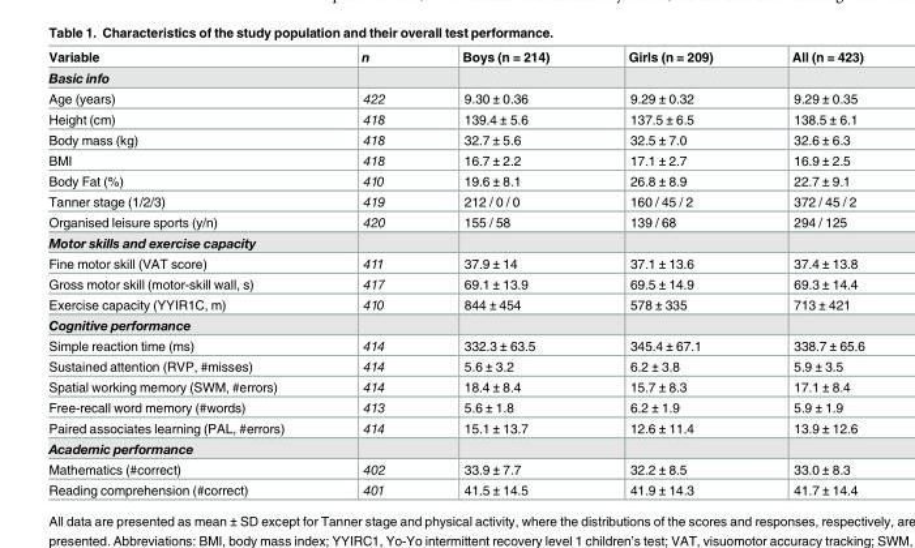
<table><thead><tr><td>Variable</td><td>n</td><td>Boys (n = 214)</td><td>Girls (n = 209)</td><td>All (n = 423)</td></tr></thead><tbody><tr><td colspan="5">Basic info</td></tr><tr><td>Age (years)</td><td>422</td><td>9.30 ± 0.36</td><td>9.29 ± 0.32</td><td>9.29 ± 0.35</td></tr><tr><td>Height (cm)</td><td>418</td><td>139.4 ± 5.6</td><td>137.5 ± 6.5</td><td>138.5 ± 6.1</td></tr><tr><td>Body mass (kg)</td><td>418</td><td>32.7 ± 5.6</td><td>32.5 ± 7.0</td><td>32.6 ± 6.3</td></tr><tr><td>BMI</td><td>418</td><td>16.7 ± 2.2</td><td>17.1 ± 2.7</td><td>16.9 ± 2.5</td></tr><tr><td>Body Fat (%)</td><td>410</td><td>19.6 ± 8.1</td><td>26.8 ± 8.9</td><td>22.7 ± 9.1</td></tr><tr><td>Tanner stage (1/2/3)</td><td>419</td><td>212 / 0 / 0</td><td>160 / 45 / 2</td><td>372 / 45 / 2</td></tr><tr><td>Organised leisure sports (y/n)</td><td>420</td><td>155 / 58</td><td>139 / 68</td><td>294 / 125</td></tr><tr><td colspan="5">Motor skills and exercise capacity</td></tr><tr><td>Fine motor skill (VAT score)</td><td>411</td><td>37.9 ± 14</td><td>37.1 ± 13.6</td><td>37.4 ± 13.8</td></tr><tr><td>Gross motor skill (motor-skill wall, s)</td><td>417</td><td>69.1 ± 13.9</td><td>69.5 ± 14.9</td><td>69.3 ± 14.4</td></tr><tr><td>Exercise capacity (YYIR1C, m)</td><td>410</td><td>844 ± 454</td><td>578 ± 335</td><td>713 ± 421</td></tr><tr><td colspan="5">Cognitive performance</td></tr><tr><td>Simple reaction time (ms)</td><td>414</td><td>332.3 ± 63.5</td><td>345.4 ± 67.1</td><td>338.7 ± 65.6</td></tr><tr><td>Sustained attention (RVP, #misses)</td><td>414</td><td>5.6 ± 3.2</td><td>6.2 ± 3.8</td><td>5.9 ± 3.5</td></tr><tr><td>Spatial working memory (SWM, #errors)</td><td>414</td><td>18.4 ± 8.4</td><td>15.7 ± 8.3</td><td>17.1 ± 8.4</td></tr><tr><td>Free-recall word memory (#words)</td><td>413</td><td>5.6 ± 1.8</td><td>6.2 ± 1.9</td><td>5.9 ± 1.9</td></tr><tr><td>Paired associates learning (PAL, #errors)</td><td>414</td><td>15.1 ± 13.7</td><td>12.6 ± 11.4</td><td>13.9 ± 12.6</td></tr><tr><td colspan="5">Academic performance</td></tr><tr><td>Mathematics (#correct)</td><td>402</td><td>33.9 ± 7.7</td><td>32.2 ± 8.5</td><td>33.0 ± 8.3</td></tr><tr><td>Reading comprehension (#correct)</td><td>401</td><td>41.5 ± 14.5</td><td>41.9 ± 14.3</td><td>41.7 ± 14.4</td></tr></tbody></table>